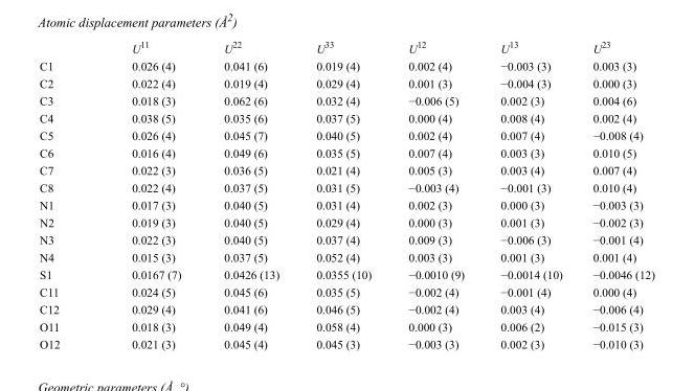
<table><thead><tr><td></td><td>U<sup>11</sup></td><td>U<sup>22</sup></td><td>U<sup>33</sup></td><td>U<sup>12</sup></td><td>U<sup>13</sup></td><td>U<sup>23</sup></td></tr></thead><tbody><tr><td>C1</td><td>0.026 (4)</td><td>0.041 (6)</td><td>0.019 (4)</td><td>0.002 (4)</td><td>−0.003 (3)</td><td>0.003 (3)</td></tr><tr><td>C2</td><td>0.022 (4)</td><td>0.019 (4)</td><td>0.029 (4)</td><td>0.001 (3)</td><td>−0.004 (3)</td><td>0.000 (3)</td></tr><tr><td>C3</td><td>0.018 (3)</td><td>0.062 (6)</td><td>0.032 (4)</td><td>−0.006 (5)</td><td>0.002 (3)</td><td>0.004 (6)</td></tr><tr><td>C4</td><td>0.038 (5)</td><td>0.035 (6)</td><td>0.037 (5)</td><td>0.000 (4)</td><td>0.008 (4)</td><td>0.002 (4)</td></tr><tr><td>C5</td><td>0.026 (4)</td><td>0.045 (7)</td><td>0.040 (5)</td><td>0.002 (4)</td><td>0.007 (4)</td><td>−0.008 (4)</td></tr><tr><td>C6</td><td>0.016 (4)</td><td>0.049 (6)</td><td>0.035 (5)</td><td>0.007 (4)</td><td>0.003 (3)</td><td>0.010 (5)</td></tr><tr><td>C7</td><td>0.022 (3)</td><td>0.036 (5)</td><td>0.021 (4)</td><td>0.005 (3)</td><td>0.003 (4)</td><td>0.007 (4)</td></tr><tr><td>C8</td><td>0.022 (4)</td><td>0.037 (5)</td><td>0.031 (5)</td><td>−0.003 (4)</td><td>−0.001 (3)</td><td>0.010 (4)</td></tr><tr><td>N1</td><td>0.017 (3)</td><td>0.040 (5)</td><td>0.031 (4)</td><td>0.002 (3)</td><td>0.000 (3)</td><td>−0.003 (3)</td></tr><tr><td>N2</td><td>0.019 (3)</td><td>0.040 (5)</td><td>0.029 (4)</td><td>0.000 (3)</td><td>0.001 (3)</td><td>−0.002 (3)</td></tr><tr><td>N3</td><td>0.022 (3)</td><td>0.040 (5)</td><td>0.037 (4)</td><td>0.009 (3)</td><td>−0.006 (3)</td><td>−0.001 (4)</td></tr><tr><td>N4</td><td>0.015 (3)</td><td>0.037 (5)</td><td>0.052 (4)</td><td>0.003 (3)</td><td>0.001 (3)</td><td>0.001 (4)</td></tr><tr><td>S1</td><td>0.0167 (7)</td><td>0.0426 (13)</td><td>0.0355 (10)</td><td>−0.0010 (9)</td><td>−0.0014 (10)</td><td>−0.0046 (12)</td></tr><tr><td>C11</td><td>0.024 (5)</td><td>0.045 (6)</td><td>0.035 (5)</td><td>−0.002 (4)</td><td>−0.001 (4)</td><td>0.000 (4)</td></tr><tr><td>C12</td><td>0.029 (4)</td><td>0.041 (6)</td><td>0.046 (5)</td><td>−0.002 (4)</td><td>0.003 (4)</td><td>−0.006 (4)</td></tr><tr><td>O11</td><td>0.018 (3)</td><td>0.049 (4)</td><td>0.058 (4)</td><td>0.000 (3)</td><td>0.006 (2)</td><td>−0.015 (3)</td></tr><tr><td>O12</td><td>0.021 (3)</td><td>0.045 (4)</td><td>0.045 (3)</td><td>−0.003 (3)</td><td>0.002 (3)</td><td>−0.010 (3)</td></tr></tbody></table>